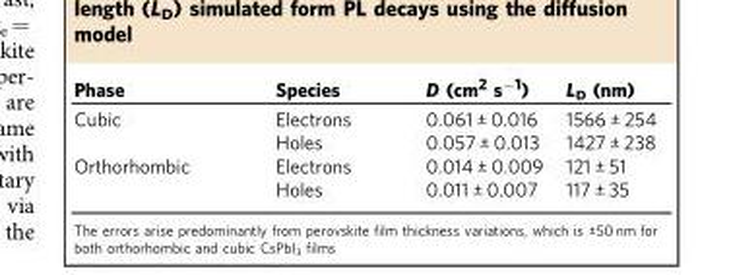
<table><thead><tr><td>Phase</td><td>Species</td><td>D (cm<sup>2</sup> s<sup>−1</sup>)</td><td>L<sub>D</sub> (nm)</td></tr></thead><tbody><tr><td rowspan="2">Cubic</td><td>Electrons</td><td>0.061 ± 0.016</td><td>1566 ± 254</td></tr><tr><td>Holes</td><td>0.057 ± 0.013</td><td>1427 ± 238</td></tr><tr><td rowspan="2">Orthorhombic</td><td>Electrons</td><td>0.014 ± 0.009</td><td>121 ± 51</td></tr><tr><td>Holes</td><td>0.011 ± 0.007</td><td>117 ± 35</td></tr></tbody></table>